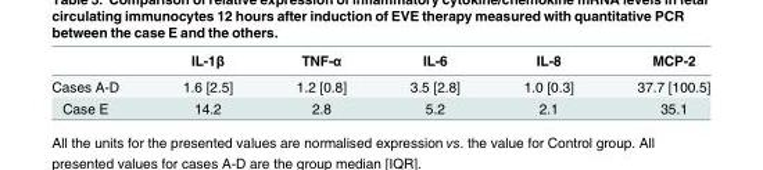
<table><thead><tr><td></td><td>IL-1β</td><td>TNF-α</td><td>IL-6</td><td>IL-8</td><td>MCP-2</td></tr></thead><tbody><tr><td>Cases A-D</td><td>1.6 [2.5]</td><td>1.2 [0.8]</td><td>3.5 [2.8]</td><td>1.0 [0.3]</td><td>37.7 [100.5]</td></tr><tr><td>Case E</td><td>14.2</td><td>2.8</td><td>5.2</td><td>2.1</td><td>35.1</td></tr></tbody></table>